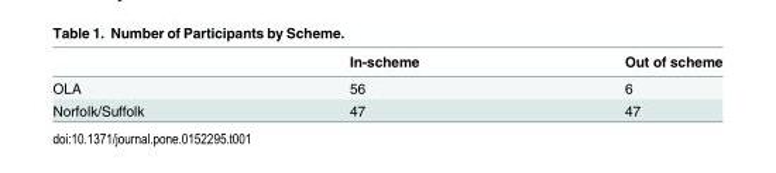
<table><thead><tr><td></td><td>In-scheme</td><td>Out of scheme</td></tr></thead><tbody><tr><td>OLA</td><td>56</td><td>6</td></tr><tr><td>Norfolk/Suffolk</td><td>47</td><td>47</td></tr></tbody></table>